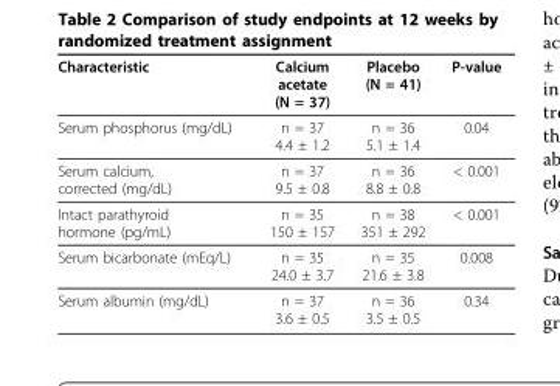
<table><thead><tr><td>Characteristic</td><td>Calcium acetate (N = 37)</td><td>Placebo (N = 41)</td><td>P-value</td></tr></thead><tbody><tr><td>Serum phosphorus (mg/dL)</td><td>n = 37 4.4 ± 1.2</td><td>n = 36 5.1 ± 1.4</td><td>0.04</td></tr><tr><td>Serum calcium, corrected (mg/dL)</td><td>n = 37 9.5 ± 0.8</td><td>n = 36 8.8 ± 0.8</td><td>&lt; 0.001</td></tr><tr><td>Intact parathyroid hormone (pg/mL)</td><td>n = 35 150 ± 157</td><td>n = 38 351 ± 292</td><td>&lt; 0.001</td></tr><tr><td>Serum bicarbonate (mEq/L)</td><td>n = 35 24.0 ± 3.7</td><td>n = 35 21.6 ± 3.8</td><td>0.008</td></tr><tr><td>Serum albumin (mg/dL)</td><td>n = 37 3.6 ± 0.5</td><td>n = 36 3.5 ± 0.5</td><td>0.34</td></tr></tbody></table>